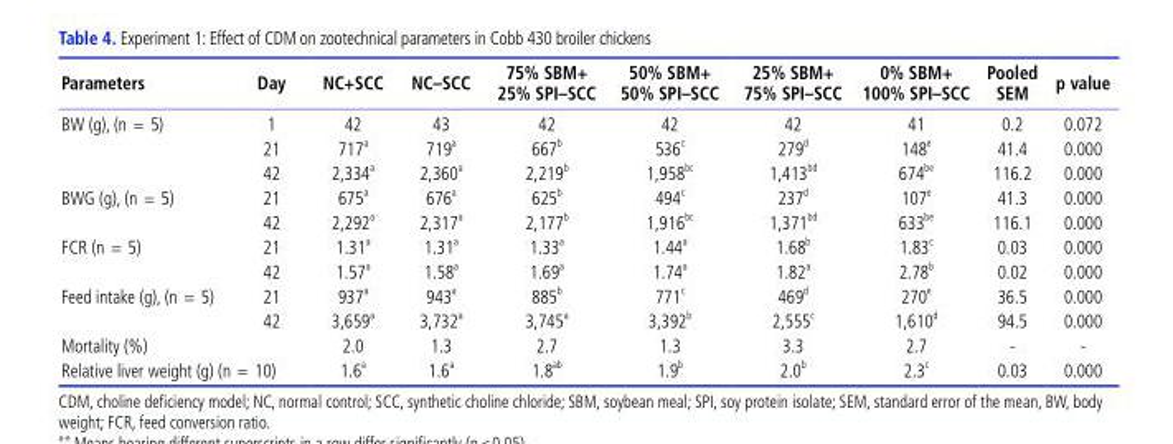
<table><thead><tr><td>Parameters</td><td>Day</td><td>NC+SCC</td><td>NC–SCC</td><td>75% SBM+ 25% SPI–SCC</td><td>50% SBM+ 50% SPI–SCC</td><td>25% SBM+ 75% SPI–SCC</td><td>0% SBM+ 100% SPI–SCC</td><td>Pooled SEM</td><td>p value</td></tr></thead><tbody><tr><td rowspan="3">BW (g), (n = 5)</td><td>1</td><td>42</td><td>43</td><td>42</td><td>42</td><td>42</td><td>41</td><td>0.2</td><td>0.072</td></tr><tr><td>21</td><td>717 <sup>a</sup></td><td>719 <sup>a</sup></td><td>667 <sup>b</sup></td><td>536 <sup>c</sup></td><td>279 <sup>d</sup></td><td>148 <sup>e</sup></td><td>41.4</td><td>0.000</td></tr><tr><td>42</td><td>2,334 <sup>a</sup></td><td>2,360 <sup>a</sup></td><td>2,219 <sup>b</sup></td><td>1,958 <sup>bc</sup></td><td>1,413 <sup>bd</sup></td><td>674 <sup>be</sup></td><td>116.2</td><td>0.000</td></tr><tr><td rowspan="2">BWG (g), (n = 5)</td><td>21</td><td>675 <sup>a</sup></td><td>676 <sup>a</sup></td><td>625 <sup>b</sup></td><td>494 <sup>c</sup></td><td>237 <sup>d</sup></td><td>107 <sup>e</sup></td><td>41.3</td><td>0.000</td></tr><tr><td>42</td><td>2,292 <sup>a</sup></td><td>2,317 <sup>a</sup></td><td>2,177 <sup>b</sup></td><td>1,916 <sup>bc</sup></td><td>1,371 <sup>bd</sup></td><td>633 <sup>be</sup></td><td>116.1</td><td>0.000</td></tr><tr><td rowspan="2">FCR (n = 5)</td><td>21</td><td>1.31 <sup>a</sup></td><td>1.31 <sup>a</sup></td><td>1.33 <sup>a</sup></td><td>1.44 <sup>a</sup></td><td>1.68 <sup>b</sup></td><td>1.83 <sup>c</sup></td><td>0.03</td><td>0.000</td></tr><tr><td>42</td><td>1.57 <sup>a</sup></td><td>1.58 <sup>a</sup></td><td>1.69 <sup>a</sup></td><td>1.74 <sup>a</sup></td><td>1.82 <sup>a</sup></td><td>2.78 <sup>b</sup></td><td>0.02</td><td>0.000</td></tr><tr><td rowspan="2">Feed intake (g), (n = 5)</td><td>21</td><td>937 <sup>a</sup></td><td>943 <sup>a</sup></td><td>885 <sup>b</sup></td><td>771 <sup>c</sup></td><td>469 <sup>d</sup></td><td>270 <sup>e</sup></td><td>36.5</td><td>0.000</td></tr><tr><td>42</td><td>3,659 <sup>a</sup></td><td>3,732 <sup>a</sup></td><td>3,745 <sup>a</sup></td><td>3,392 <sup>b</sup></td><td>2,555 <sup>c</sup></td><td>1,610 <sup>d</sup></td><td>94.5</td><td>0.000</td></tr><tr><td>Mortality (%)</td><td></td><td>2.0</td><td>1.3</td><td>2.7</td><td>1.3</td><td>3.3</td><td>2.7</td><td>-</td><td>-</td></tr><tr><td colspan="2">Relative liver weight (g) (n = 10)</td><td>1.6 <sup>a</sup></td><td>1.6 <sup>a</sup></td><td>1.8 <sup>ab</sup></td><td>1.9 <sup>b</sup></td><td>2.0 <sup>b</sup></td><td>2.3 <sup>c</sup></td><td>0.03</td><td>0.000</td></tr></tbody></table>